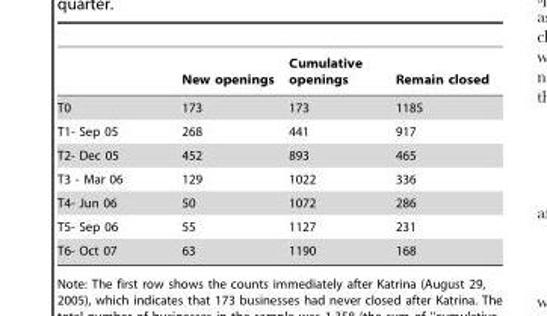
<table><thead><tr><td></td><td>New openings</td><td>Cumulative openings</td><td>Remain closed</td></tr></thead><tbody><tr><td>T0</td><td>173</td><td>173</td><td>1185</td></tr><tr><td>T1- Sep 05</td><td>268</td><td>441</td><td>917</td></tr><tr><td>T2- Dec 05</td><td>452</td><td>893</td><td>465</td></tr><tr><td>T3 - Mar 06</td><td>129</td><td>1022</td><td>336</td></tr><tr><td>T4- Jun 06</td><td>50</td><td>1072</td><td>286</td></tr><tr><td>T5- Sep 06</td><td>55</td><td>1127</td><td>231</td></tr><tr><td>T6- Oct 07</td><td>63</td><td>1190</td><td>168</td></tr></tbody></table>